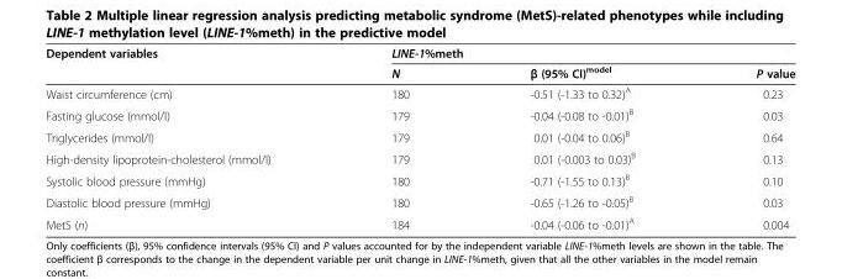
<table><thead><tr><td rowspan="2">Dependent variables</td><td colspan="3">LINE-1%meth</td></tr><tr><td>N</td><td>β (95% CI)<sup>model</sup></td><td>P value</td></tr></thead><tbody><tr><td>Waist circumference (cm)</td><td>180</td><td>-0.51 (-1.33 to 0.32)<sup>A</sup></td><td>0.23</td></tr><tr><td>Fasting glucose (mmol/l)</td><td>179</td><td>-0.04 (-0.08 to -0.01)<sup>B</sup></td><td>0.03</td></tr><tr><td>Triglycerides (mmol/l)</td><td>179</td><td>0.01 (-0.04 to 0.06)<sup>B</sup></td><td>0.64</td></tr><tr><td>High-density lipoprotein-cholesterol (mmol/l)</td><td>179</td><td>0.01 (-0.003 to 0.03)<sup>B</sup></td><td>0.13</td></tr><tr><td>Systolic blood pressure (mmHg)</td><td>180</td><td>-0.71 (-1.55 to 0.13)<sup>B</sup></td><td>0.10</td></tr><tr><td>Diastolic blood pressure (mmHg)</td><td>180</td><td>-0.65 (-1.26 to -0.05)<sup>B</sup></td><td>0.03</td></tr><tr><td>MetS (n)</td><td>184</td><td>-0.04 (-0.06 to -0.01)<sup>A</sup></td><td>0.004</td></tr></tbody></table>